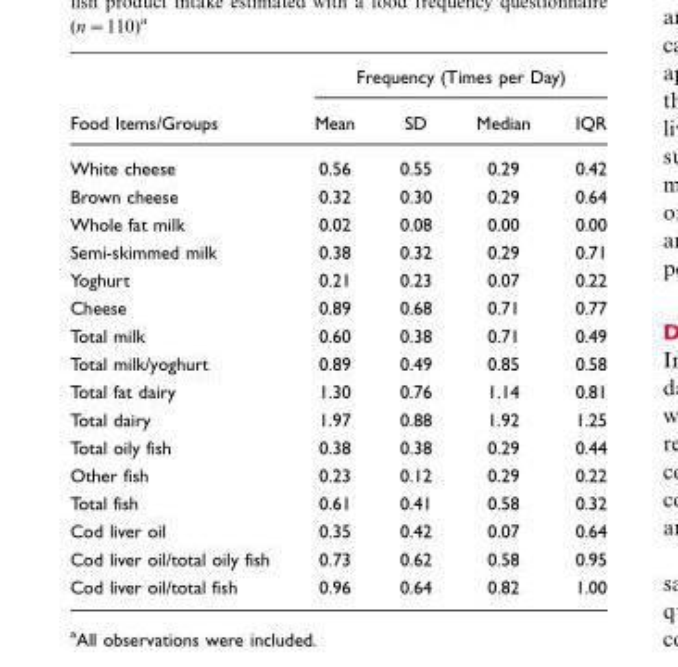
<table><thead><tr><td rowspan="2">Food Items/Groups</td><td colspan="4">Frequency (Times per Day)</td></tr><tr><td>Mean</td><td>SD</td><td>Median</td><td>IQR</td></tr></thead><tbody><tr><td>White cheese</td><td>0.56</td><td>0.55</td><td>0.29</td><td>0.42</td></tr><tr><td>Brown cheese</td><td>0.32</td><td>0.30</td><td>0.29</td><td>0.64</td></tr><tr><td>Whole fat milk</td><td>0.02</td><td>0.08</td><td>0.00</td><td>0.00</td></tr><tr><td>Semi-skimmed milk</td><td>0.38</td><td>0.32</td><td>0.29</td><td>0.71</td></tr><tr><td>Yoghurt</td><td>0.21</td><td>0.23</td><td>0.07</td><td>0.22</td></tr><tr><td>Cheese</td><td>0.89</td><td>0.68</td><td>0.71</td><td>0.77</td></tr><tr><td>Total milk</td><td>0.60</td><td>0.38</td><td>0.71</td><td>0.49</td></tr><tr><td>Total milk/yoghurt</td><td>0.89</td><td>0.49</td><td>0.85</td><td>0.58</td></tr><tr><td>Total fat dairy</td><td>1.30</td><td>0.76</td><td>1.14</td><td>0.81</td></tr><tr><td>Total dairy</td><td>1.97</td><td>0.88</td><td>1.92</td><td>1.25</td></tr><tr><td>Total oily fish</td><td>0.38</td><td>0.38</td><td>0.29</td><td>0.44</td></tr><tr><td>Other fish</td><td>0.23</td><td>0.12</td><td>0.29</td><td>0.22</td></tr><tr><td>Total fish</td><td>0.61</td><td>0.41</td><td>0.58</td><td>0.32</td></tr><tr><td>Cod liver oil</td><td>0.35</td><td>0.42</td><td>0.07</td><td>0.64</td></tr><tr><td>Cod liver oil/total oily fish</td><td>0.73</td><td>0.62</td><td>0.58</td><td>0.95</td></tr><tr><td>Cod liver oil/total fish</td><td>0.96</td><td>0.64</td><td>0.82</td><td>1.00</td></tr></tbody></table>